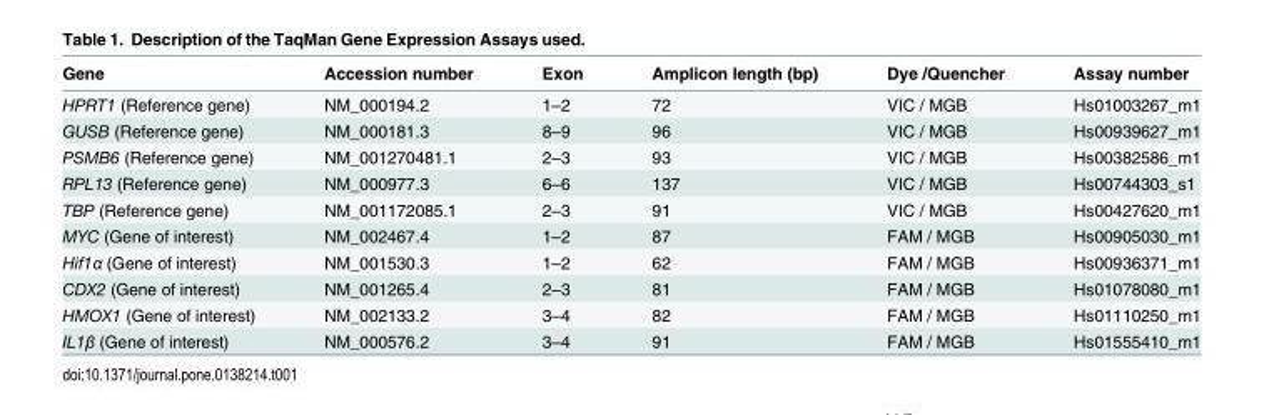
<table><thead><tr><td>Gene</td><td>Accession number</td><td>Exon</td><td>Amplicon length (bp)</td><td>Dye /Quencher</td><td>Assay number</td></tr></thead><tbody><tr><td>HPRT1 (Reference gene)</td><td>NM_000194.2</td><td>1–2</td><td>72</td><td>VIC / MGB</td><td>Hs01003267_m1</td></tr><tr><td>GUSB (Reference gene)</td><td>NM_000181.3</td><td>8–9</td><td>96</td><td>VIC / MGB</td><td>Hs00939627_m1</td></tr><tr><td>PSMB6 (Reference gene)</td><td>NM_001270481.1</td><td>2–3</td><td>93</td><td>VIC / MGB</td><td>Hs00382586_m1</td></tr><tr><td>RPL13 (Reference gene)</td><td>NM_000977.3</td><td>6–6</td><td>137</td><td>VIC / MGB</td><td>Hs00744303_s1</td></tr><tr><td>TBP (Reference gene)</td><td>NM_001172085.1</td><td>2–3</td><td>91</td><td>VIC / MGB</td><td>Hs00427620_m1</td></tr><tr><td>MYC (Gene of interest)</td><td>NM_002467.4</td><td>1–2</td><td>87</td><td>FAM / MGB</td><td>Hs00905030_m1</td></tr><tr><td>Hif1α (Gene of interest)</td><td>NM_001530.3</td><td>1–2</td><td>62</td><td>FAM / MGB</td><td>Hs00936371_m1</td></tr><tr><td>CDX2 (Gene of interest)</td><td>NM_001265.4</td><td>2–3</td><td>81</td><td>FAM / MGB</td><td>Hs01078080_m1</td></tr><tr><td>HMOX1 (Gene of interest)</td><td>NM_002133.2</td><td>3–4</td><td>82</td><td>FAM / MGB</td><td>Hs01110250_m1</td></tr><tr><td>IL1β (Gene of interest)</td><td>NM_000576.2</td><td>3–4</td><td>91</td><td>FAM / MGB</td><td>Hs01555410_m1</td></tr></tbody></table>